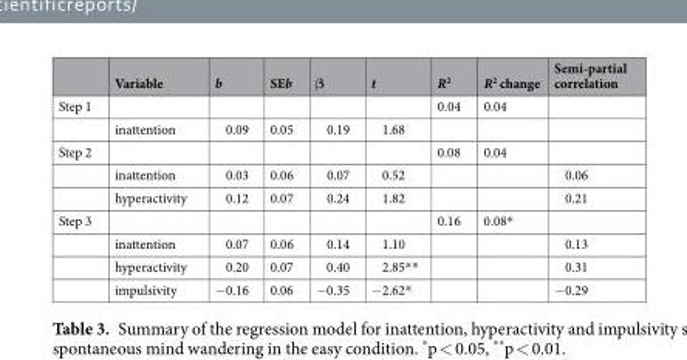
<table><thead><tr><td></td><td>Variable</td><td>b</td><td>SEb</td><td>β</td><td>t</td><td>R<sup>2</sup></td><td>R<sup>2</sup> change</td><td>Semi-partial correlation</td></tr></thead><tbody><tr><td rowspan="2">Step 1</td><td></td><td></td><td></td><td></td><td></td><td>0.04</td><td>0.04</td><td></td></tr><tr><td>inattention</td><td>0.09</td><td>0.05</td><td>0.19</td><td>1.68</td><td></td><td></td><td></td></tr><tr><td rowspan="3">Step 2</td><td></td><td></td><td></td><td></td><td></td><td>0.08</td><td>0.04</td><td></td></tr><tr><td>inattention</td><td>0.03</td><td>0.06</td><td>0.07</td><td>0.52</td><td></td><td></td><td>0.06</td></tr><tr><td>hyperactivity</td><td>0.12</td><td>0.07</td><td>0.24</td><td>1.82</td><td></td><td></td><td>0.21</td></tr><tr><td rowspan="4">Step 3</td><td></td><td></td><td></td><td></td><td></td><td>0.16</td><td>0.08*</td><td></td></tr><tr><td>inattention</td><td>0.07</td><td>0.06</td><td>0.14</td><td>1.10</td><td></td><td></td><td>0.13</td></tr><tr><td>hyperactivity</td><td>0.20</td><td>0.07</td><td>0.40</td><td>2.85**</td><td></td><td></td><td>0.31</td></tr><tr><td>impulsivity</td><td>−0.16</td><td>0.06</td><td>−0.35</td><td>−2.62*</td><td></td><td></td><td>−0.29</td></tr></tbody></table>